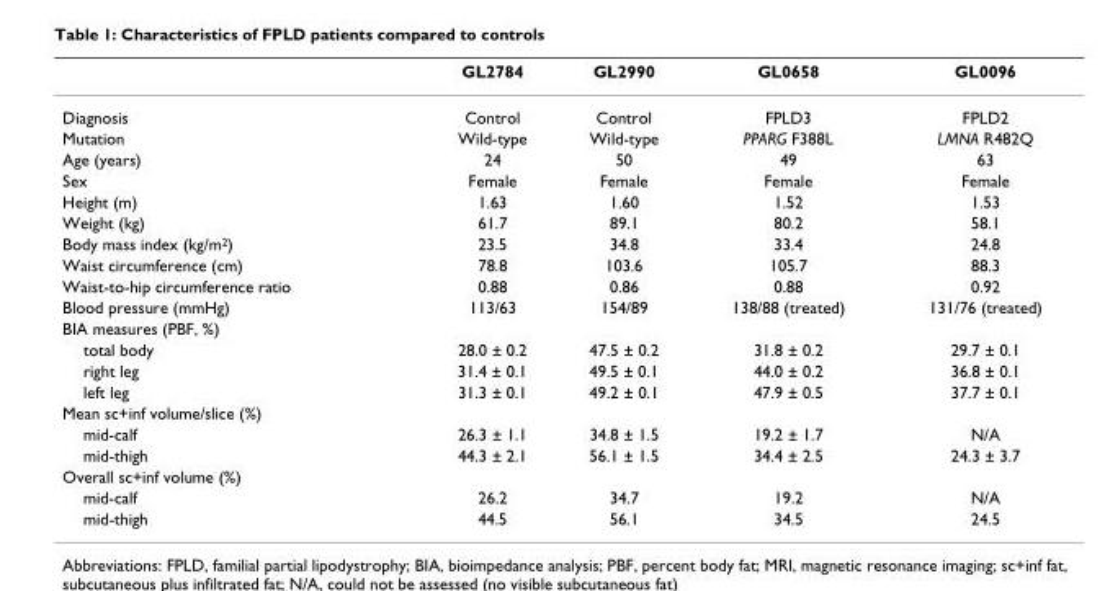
<table><thead><tr><td></td><td>GL2784</td><td>GL2990</td><td>GL0658</td><td>GL0096</td></tr></thead><tbody><tr><td>Diagnosis</td><td>Control</td><td>Control</td><td>FPLD3</td><td>FPLD2</td></tr><tr><td>Mutation</td><td>Wild-type</td><td>Wild-type</td><td>PPARG F388L</td><td>LMNA R482Q</td></tr><tr><td>Age (years)</td><td>24</td><td>50</td><td>49</td><td>63</td></tr><tr><td>Sex</td><td>Female</td><td>Female</td><td>Female</td><td>Female</td></tr><tr><td>Height (m)</td><td>1.63</td><td>1.60</td><td>1.52</td><td>1.53</td></tr><tr><td>Weight (kg)</td><td>61.7</td><td>89.1</td><td>80.2</td><td>58.1</td></tr><tr><td>Body mass index (kg/m2)</td><td>23.5</td><td>34.8</td><td>33.4</td><td>24.8</td></tr><tr><td>Waist circumference (cm)</td><td>78.8</td><td>103.6</td><td>105.7</td><td>88.3</td></tr><tr><td>Waist-to-hip circumference ratio</td><td>0.88</td><td>0.86</td><td>0.88</td><td>0.92</td></tr><tr><td>Blood pressure (mmHg)</td><td>113/63</td><td>154/89</td><td>138/88 (treated)</td><td>131/76 (treated)</td></tr><tr><td colspan="5">BIA measures (PBF, %)</td></tr><tr><td>total body</td><td>28.0 ± 0.2</td><td>47.5 ± 0.2</td><td>31.8 ± 0.2</td><td>29.7 ± 0.1</td></tr><tr><td>right leg</td><td>31.4 ± 0.1</td><td>49.5 ± 0.1</td><td>44.0 ± 0.2</td><td>36.8 ± 0.1</td></tr><tr><td>left leg</td><td>31.3 ± 0.1</td><td>49.2 ± 0.1</td><td>47.9 ± 0.5</td><td>37.7 ± 0.1</td></tr><tr><td colspan="5">Mean sc+inf volume/slice (%)</td></tr><tr><td>mid-calf</td><td>26.3 ± 1.1</td><td>34.8 ± 1.5</td><td>19.2 ± 1.7</td><td>N/A</td></tr><tr><td>mid-thigh</td><td>44.3 ± 2.1</td><td>56.1 ± 1.5</td><td>34.4 ± 2.5</td><td>24.3 ± 3.7</td></tr><tr><td colspan="5">Overall sc+inf volume (%)</td></tr><tr><td>mid-calf</td><td>26.2</td><td>34.7</td><td>19.2</td><td>N/A</td></tr><tr><td>mid-thigh</td><td>44.5</td><td>56.1</td><td>34.5</td><td>24.5</td></tr></tbody></table>